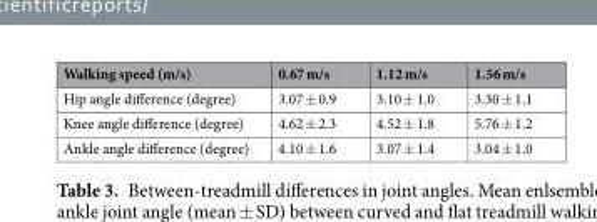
<table><thead><tr><td>Walking speed (m/s)</td><td>0.67 m/s</td><td>1.12 m/s</td><td>1.56 m/s</td></tr></thead><tbody><tr><td>Hip angle difference (degree)</td><td>3.07 ± 0.9</td><td>3.10 ± 1.0</td><td>3.30 ± 1.1</td></tr><tr><td>Knee angle difference (degree)</td><td>4.62 ± 2.3</td><td>4.52 ± 1.8</td><td>5.76 ± 1.2</td></tr><tr><td>Ankle angle difference (degree)</td><td>4.10 ± 1.6</td><td>3.07 ± 1.4</td><td>3.04 ± 1.0</td></tr></tbody></table>